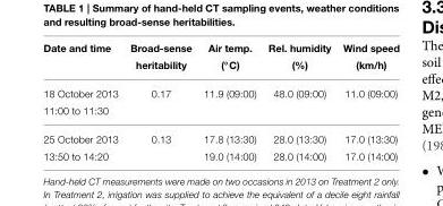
<table><thead><tr><td>Date and time</td><td>Broad-sense heritability</td><td>Air temp. (◦C)</td><td>Rel. humidity (%)</td><td>Wind speed (km/h)</td></tr></thead><tbody><tr><td>18 October 2013</td><td>0.17</td><td>11.9 (09:00)</td><td>48.0 (09:00)</td><td>11.0 (09:00)</td></tr><tr><td colspan="5">11:00 to 11:30</td></tr><tr><td>25 October 2013</td><td>0.13</td><td>17.8 (13:30)</td><td>28.0 (13:30)</td><td>17.0 (13:30)</td></tr><tr><td>13:50 to 14:20</td><td></td><td>19.0 (14:00)</td><td>28.0 (14:00)</td><td>17.0 (14:00)</td></tr></tbody></table>